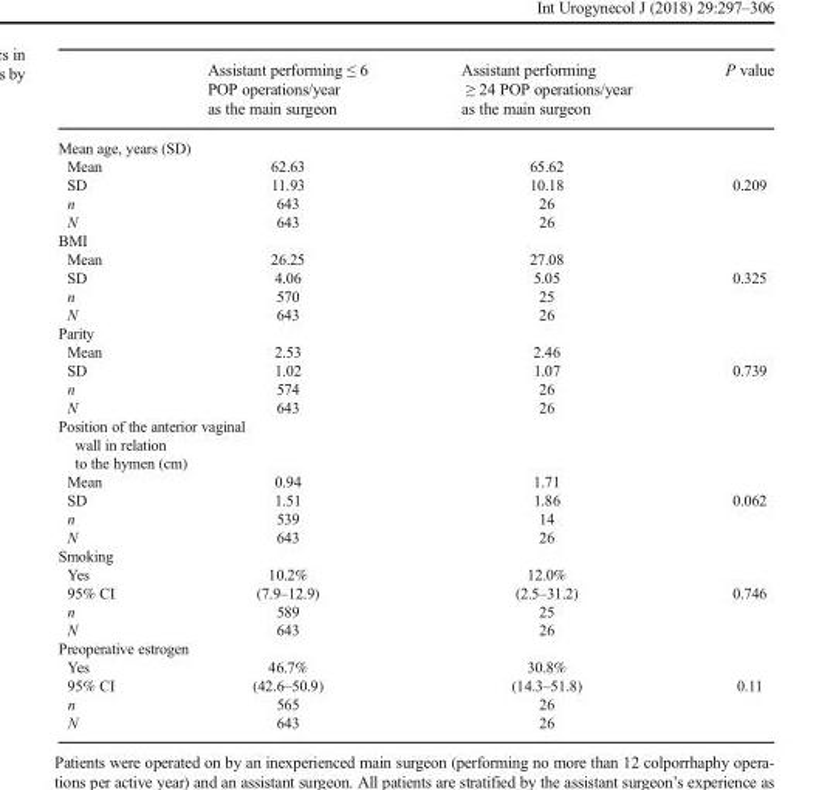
<table><thead><tr><td></td><td>Assistant performing ≤ 6 POP operations/year as the main surgeon</td><td>Assistant performing ≥ 24 POP operations/year as the main surgeon</td><td>P value</td></tr></thead><tbody><tr><td colspan="4">Mean age, years (SD)</td></tr><tr><td>Mean</td><td>62.63</td><td>65.62</td><td></td></tr><tr><td>SD</td><td>11.93</td><td>10.18</td><td>0.209</td></tr><tr><td>n</td><td>643</td><td>26</td><td></td></tr><tr><td>N</td><td>643</td><td>26</td><td></td></tr><tr><td colspan="4">BMI</td></tr><tr><td>Mean</td><td>26.25</td><td>27.08</td><td></td></tr><tr><td>SD</td><td>4.06</td><td>5.05</td><td>0.325</td></tr><tr><td>n</td><td>570</td><td>25</td><td></td></tr><tr><td>N</td><td>643</td><td>26</td><td></td></tr><tr><td colspan="4">Parity</td></tr><tr><td>Mean</td><td>2.53</td><td>2.46</td><td></td></tr><tr><td>SD</td><td>1.02</td><td>1.07</td><td>0.739</td></tr><tr><td>n</td><td>574</td><td>26</td><td></td></tr><tr><td>N</td><td>643</td><td>26</td><td></td></tr><tr><td colspan="4">Position of the anterior vaginal wall in relation to the hymen (cm)</td></tr><tr><td>Mean</td><td>0.94</td><td>1.71</td><td></td></tr><tr><td>SD</td><td>1.51</td><td>1.86</td><td>0.062</td></tr><tr><td>n</td><td>539</td><td>14</td><td></td></tr><tr><td>N</td><td>643</td><td>26</td><td></td></tr><tr><td colspan="4">Smoking</td></tr><tr><td>Yes</td><td>10.2%</td><td>12.0%</td><td></td></tr><tr><td>95% CI</td><td>(7.9–12.9)</td><td>(2.5–31.2)</td><td>0.746</td></tr><tr><td>n</td><td>589</td><td>25</td><td></td></tr><tr><td>N</td><td>643</td><td>26</td><td></td></tr><tr><td colspan="4">Preoperative estrogen</td></tr><tr><td>Yes</td><td>46.7%</td><td>30.8%</td><td></td></tr><tr><td>95% CI</td><td>(42.6–50.9)</td><td>(14.3–51.8)</td><td>0.11</td></tr><tr><td>n</td><td>565</td><td>26</td><td></td></tr><tr><td>N</td><td>643</td><td>26</td><td></td></tr></tbody></table>